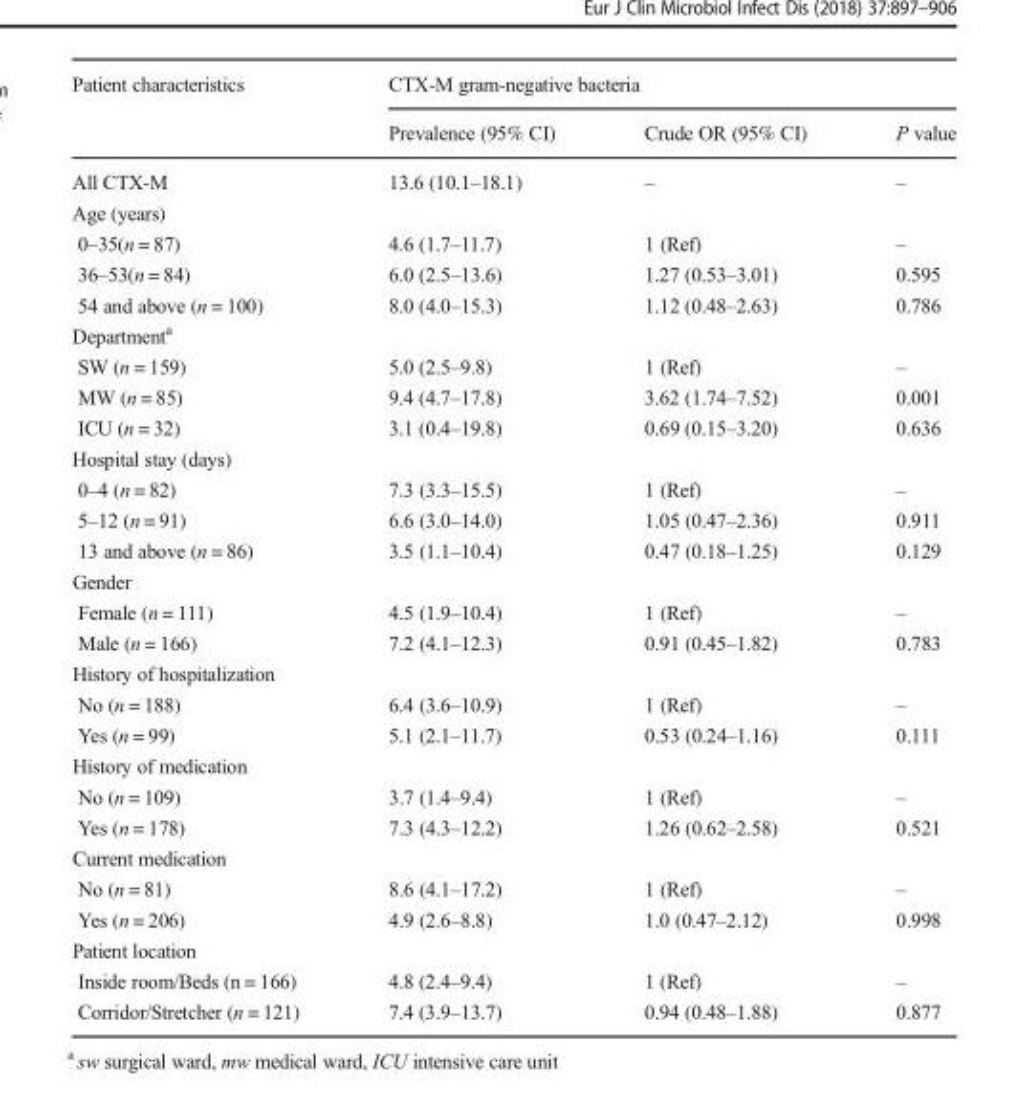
<table><thead><tr><td rowspan="2">Patient characteristics</td><td colspan="3">CTX-M gram-negative bacteria</td></tr><tr><td>Prevalence (95% CI)</td><td>Crude OR (95% CI)</td><td>P value</td></tr></thead><tbody><tr><td>All CTX-M</td><td>13.6 (10.1–18.1)</td><td>–</td><td>–</td></tr><tr><td colspan="4">Age (years)</td></tr><tr><td>0–35(n = 87)</td><td>4.6 (1.7–11.7)</td><td>1 (Ref)</td><td>–</td></tr><tr><td>36–53(n = 84)</td><td>6.0 (2.5–13.6)</td><td>1.27 (0.53–3.01)</td><td>0.595</td></tr><tr><td>54 and above (n = 100)</td><td>8.0 (4.0–15.3)</td><td>1.12 (0.48–2.63)</td><td>0.786</td></tr><tr><td colspan="4">Department<sup>a</sup></td></tr><tr><td>SW (n = 159)</td><td>5.0 (2.5–9.8)</td><td>1 (Ref)</td><td>–</td></tr><tr><td>MW (n = 85)</td><td>9.4 (4.7–17.8)</td><td>3.62 (1.74–7.52)</td><td>0.001</td></tr><tr><td>ICU (n = 32)</td><td>3.1 (0.4–19.8)</td><td>0.69 (0.15–3.20)</td><td>0.636</td></tr><tr><td colspan="4">Hospital stay (days)</td></tr><tr><td>0–4 (n = 82)</td><td>7.3 (3.3–15.5)</td><td>1 (Ref)</td><td>–</td></tr><tr><td>5–12 (n = 91)</td><td>6.6 (3.0–14.0)</td><td>1.05 (0.47–2.36)</td><td>0.911</td></tr><tr><td>13 and above (n = 86)</td><td>3.5 (1.1–10.4)</td><td>0.47 (0.18–1.25)</td><td>0.129</td></tr><tr><td colspan="4">Gender</td></tr><tr><td>Female (n = 111)</td><td>4.5 (1.9–10.4)</td><td>1 (Ref)</td><td>–</td></tr><tr><td>Male (n = 166)</td><td>7.2 (4.1–12.3)</td><td>0.91 (0.45–1.82)</td><td>0.783</td></tr><tr><td colspan="4">History of hospitalization</td></tr><tr><td>No (n = 188)</td><td>6.4 (3.6–10.9)</td><td>1 (Ref)</td><td>–</td></tr><tr><td>Yes (n = 99)</td><td>5.1 (2.1–11.7)</td><td>0.53 (0.24–1.16)</td><td>0.111</td></tr><tr><td colspan="4">History of medication</td></tr><tr><td>No (n = 109)</td><td>3.7 (1.4–9.4)</td><td>1 (Ref)</td><td>–</td></tr><tr><td>Yes (n = 178)</td><td>7.3 (4.3–12.2)</td><td>1.26 (0.62–2.58)</td><td>0.521</td></tr><tr><td colspan="4">Current medication</td></tr><tr><td>No (n = 81)</td><td>8.6 (4.1–17.2)</td><td>1 (Ref)</td><td>–</td></tr><tr><td>Yes (n = 206)</td><td>4.9 (2.6–8.8)</td><td>1.0 (0.47–2.12)</td><td>0.998</td></tr><tr><td colspan="4">Patient location</td></tr><tr><td>Inside room/Beds (n = 166)</td><td>4.8 (2.4–9.4)</td><td>1 (Ref)</td><td>–</td></tr><tr><td>Corridor/Stretcher (n = 121)</td><td>7.4 (3.9–13.7)</td><td>0.94 (0.48–1.88)</td><td>0.877</td></tr></tbody></table>